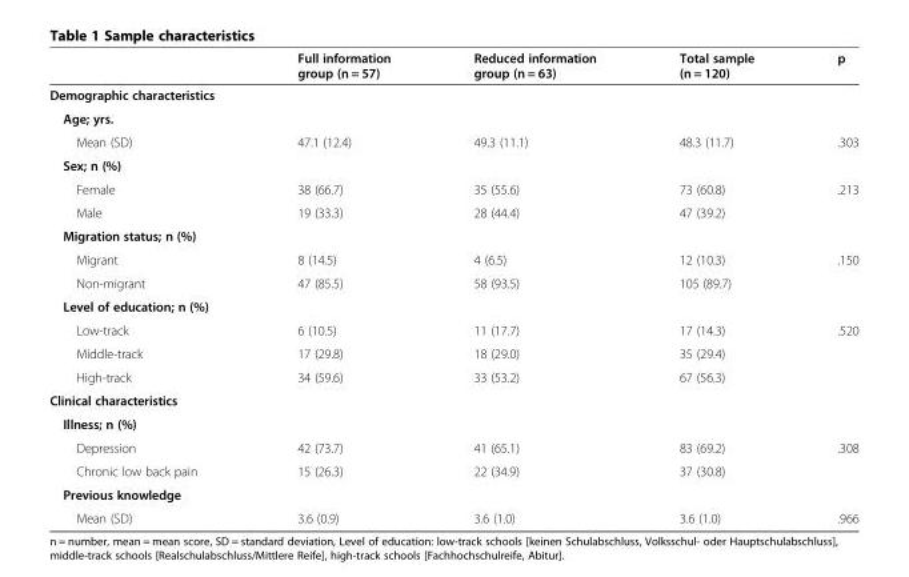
<table><thead><tr><td></td><td>Full information group (n = 57)</td><td>Reduced information group (n = 63)</td><td>Total sample (n = 120)</td><td>p</td></tr></thead><tbody><tr><td colspan="5">Demographic characteristics</td></tr><tr><td colspan="5">Age; yrs.</td></tr><tr><td>Mean (SD)</td><td>47.1 (12.4)</td><td>49.3 (11.1)</td><td>48.3 (11.7)</td><td>.303</td></tr><tr><td colspan="5">Sex; n (%)</td></tr><tr><td>Female</td><td>38 (66.7)</td><td>35 (55.6)</td><td>73 (60.8)</td><td>.213</td></tr><tr><td>Male</td><td>19 (33.3)</td><td>28 (44.4)</td><td>47 (39.2)</td><td></td></tr><tr><td colspan="5">Migration status; n (%)</td></tr><tr><td>Migrant</td><td>8 (14.5)</td><td>4 (6.5)</td><td>12 (10.3)</td><td>.150</td></tr><tr><td>Non-migrant</td><td>47 (85.5)</td><td>58 (93.5)</td><td>105 (89.7)</td><td></td></tr><tr><td colspan="5">Level of education; n (%)</td></tr><tr><td>Low-track</td><td>6 (10.5)</td><td>11 (17.7)</td><td>17 (14.3)</td><td>.520</td></tr><tr><td>Middle-track</td><td>17 (29.8)</td><td>18 (29.0)</td><td>35 (29.4)</td><td></td></tr><tr><td>High-track</td><td>34 (59.6)</td><td>33 (53.2)</td><td>67 (56.3)</td><td></td></tr><tr><td colspan="5">Clinical characteristics</td></tr><tr><td colspan="5">Illness; n (%)</td></tr><tr><td>Depression</td><td>42 (73.7)</td><td>41 (65.1)</td><td>83 (69.2)</td><td>.308</td></tr><tr><td>Chronic low back pain</td><td>15 (26.3)</td><td>22 (34.9)</td><td>37 (30.8)</td><td></td></tr><tr><td colspan="5">Previous knowledge</td></tr><tr><td>Mean (SD)</td><td>3.6 (0.9)</td><td>3.6 (1.0)</td><td>3.6 (1.0)</td><td>.966</td></tr></tbody></table>